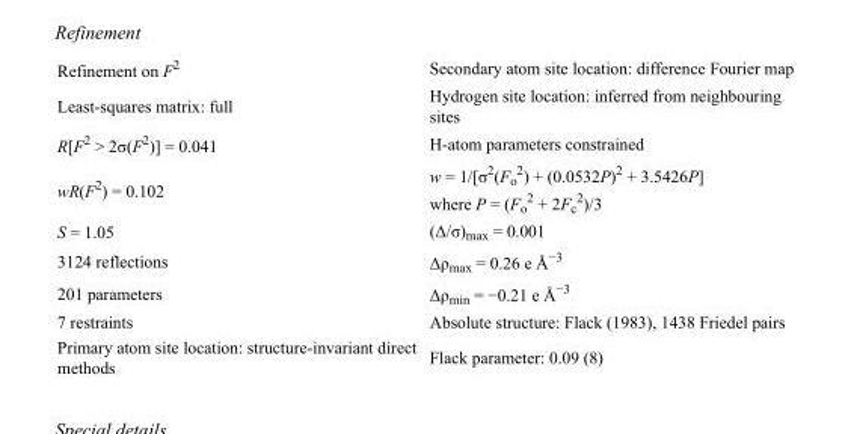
<table><tbody><tr><td>Refinement on F<sup>2</sup></td><td>Secondary atom site location: difference Fourier map</td></tr><tr><td>Least-squares matrix: full</td><td>Hydrogen site location: inferred from neighbouring sites</td></tr><tr><td>R[F<sup>2</sup> &gt; 2σ(F<sup>2</sup>)] = 0.041</td><td>H-atom parameters constrained</td></tr><tr><td>wR(F<sup>2</sup>) = 0.102</td><td>w = 1/[σ<sup>2</sup>(F<sub>o</sub> <sup>2</sup>) + (0.0532P)<sup>2</sup> + 3.5426P] where P = (F<sub>o</sub> <sup>2</sup> + 2F<sub>c</sub> <sup>2</sup>)/3</td></tr><tr><td>S = 1.05</td><td>(Δ/σ)<sub>max</sub> = 0.001</td></tr><tr><td>3124 reflections</td><td>Δρ<sub>max</sub> = 0.26 e Å<sup>−3</sup></td></tr><tr><td>201 parameters</td><td>Δρ<sub>min</sub> = −0.21 e Å<sup>−3</sup></td></tr><tr><td>7 restraints</td><td>Absolute structure: Flack (1983), 1438 Friedel pairs</td></tr><tr><td>Primary atom site location: structure-invariant direct methods</td><td>Flack parameter: 0.09 (8)</td></tr></tbody></table>